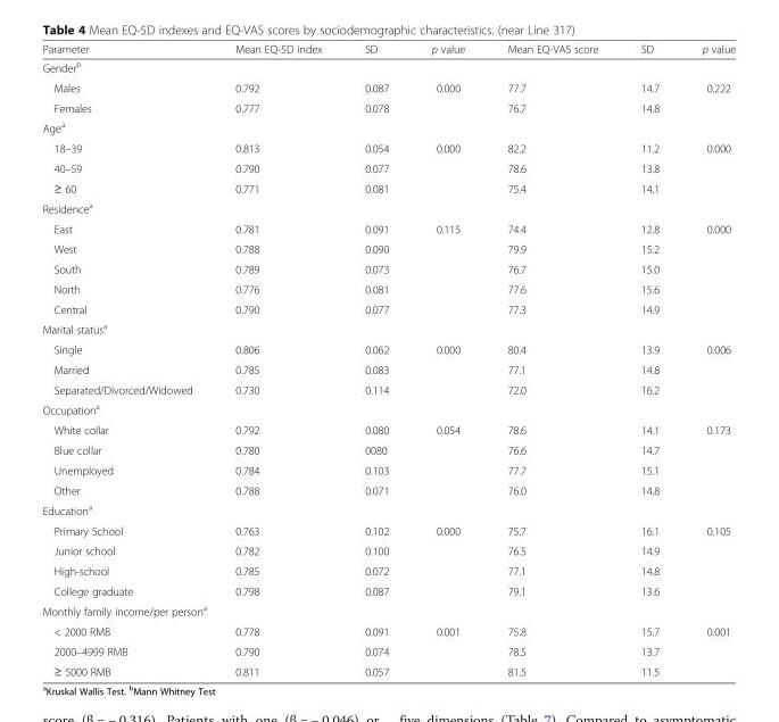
<table><thead><tr><td>Parameter</td><td>Mean EQ-5D index</td><td>SD</td><td>p value</td><td>Mean EQ-VAS score</td><td>SD</td><td>p value</td></tr></thead><tbody><tr><td colspan="7">Gender<sup>b</sup></td></tr><tr><td>Males</td><td>0.792</td><td>0.087</td><td>0.000</td><td>77.7</td><td>14.7</td><td>0.222</td></tr><tr><td>Females</td><td>0.777</td><td>0.078</td><td></td><td>76.7</td><td>14.8</td><td></td></tr><tr><td colspan="7">Age<sup>a</sup></td></tr><tr><td>18–39</td><td>0.813</td><td>0.054</td><td>0.000</td><td>82.2</td><td>11.2</td><td>0.000</td></tr><tr><td>40–59</td><td>0.790</td><td>0.077</td><td></td><td>78.6</td><td>13.8</td><td></td></tr><tr><td>≥ 60</td><td>0.771</td><td>0.081</td><td></td><td>75.4</td><td>14.1</td><td></td></tr><tr><td colspan="7">Residence<sup>a</sup></td></tr><tr><td>East</td><td>0.781</td><td>0.091</td><td>0.115</td><td>74.4</td><td>12.8</td><td>0.000</td></tr><tr><td>West</td><td>0.788</td><td>0.090</td><td></td><td>79.9</td><td>15.2</td><td></td></tr><tr><td>South</td><td>0.789</td><td>0.073</td><td></td><td>76.7</td><td>15.0</td><td></td></tr><tr><td>North</td><td>0.776</td><td>0.081</td><td></td><td>77.6</td><td>15.6</td><td></td></tr><tr><td>Central</td><td>0.790</td><td>0.077</td><td></td><td>77.3</td><td>14.9</td><td></td></tr><tr><td colspan="7">Marital status<sup>a</sup></td></tr><tr><td>Single</td><td>0.806</td><td>0.062</td><td>0.000</td><td>80.4</td><td>13.9</td><td>0.006</td></tr><tr><td>Married</td><td>0.785</td><td>0.083</td><td></td><td>77.1</td><td>14.8</td><td></td></tr><tr><td>Separated/Divorced/Widowed</td><td>0.730</td><td>0.114</td><td></td><td>72.0</td><td>16.2</td><td></td></tr><tr><td colspan="7">Occupation<sup>a</sup></td></tr><tr><td>White collar</td><td>0.792</td><td>0.080</td><td>0.054</td><td>78.6</td><td>14.1</td><td>0.173</td></tr><tr><td>Blue collar</td><td>0.780</td><td>0080</td><td></td><td>76.6</td><td>14.7</td><td></td></tr><tr><td>Unemployed</td><td>0.784</td><td>0.103</td><td></td><td>77.7</td><td>15.1</td><td></td></tr><tr><td>Other</td><td>0.788</td><td>0.071</td><td></td><td>76.0</td><td>14.8</td><td></td></tr><tr><td colspan="7">Education<sup>a</sup></td></tr><tr><td>Primary School</td><td>0.763</td><td>0.102</td><td>0.000</td><td>75.7</td><td>16.1</td><td>0.105</td></tr><tr><td>Junior school</td><td>0.782</td><td>0.100</td><td></td><td>76.5</td><td>14.9</td><td></td></tr><tr><td>High-school</td><td>0.785</td><td>0.072</td><td></td><td>77.1</td><td>14.8</td><td></td></tr><tr><td>College graduate</td><td>0.798</td><td>0.087</td><td></td><td>79.1</td><td>13.6</td><td></td></tr><tr><td colspan="7">Monthly family income/per person<sup>a</sup></td></tr><tr><td>&lt; 2000 RMB</td><td>0.778</td><td>0.091</td><td>0.001</td><td>75.8</td><td>15.7</td><td>0.001</td></tr><tr><td>2000–4999 RMB</td><td>0.790</td><td>0.074</td><td></td><td>78.5</td><td>13.7</td><td></td></tr><tr><td>≥ 5000 RMB</td><td>0.811</td><td>0.057</td><td></td><td>81.5</td><td>11.5</td><td></td></tr></tbody></table>